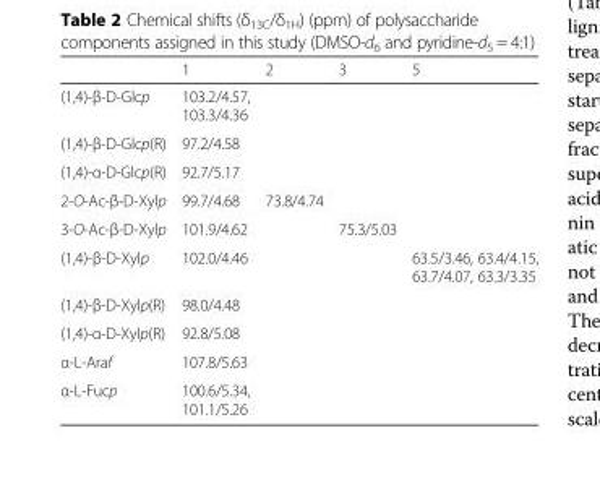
<table><thead><tr><td></td><td>1</td><td>2</td><td>3</td><td>5</td></tr></thead><tbody><tr><td>(1,4)-β-D-Glcp</td><td>103.2/4.57, 103.3/4.36</td><td></td><td></td><td></td></tr><tr><td>(1,4)-β-D-Glcp(R)</td><td>97.2/4.58</td><td></td><td></td><td></td></tr><tr><td>(1,4)-α-D-Glcp(R)</td><td>92.7/5.17</td><td></td><td></td><td></td></tr><tr><td>2-O-Ac-β-D-Xylp</td><td>99.7/4.68</td><td>73.8/4.74</td><td></td><td></td></tr><tr><td>3-O-Ac-β-D-Xylp</td><td>101.9/4.62</td><td></td><td>75.3/5.03</td><td></td></tr><tr><td>(1,4)-β-D-Xylp</td><td>102.0/4.46</td><td></td><td></td><td>63.5/3.46, 63.4/4.15, 63.7/4.07, 63.3/3.35</td></tr><tr><td>(1,4)-β-D-Xylp(R)</td><td>98.0/4.48</td><td></td><td></td><td></td></tr><tr><td>(1,4)-α-D-Xylp(R)</td><td>92.8/5.08</td><td></td><td></td><td></td></tr><tr><td>α-L-Araf</td><td>107.8/5.63</td><td></td><td></td><td></td></tr><tr><td>α-L-Fucp</td><td>100.6/5.34, 101.1/5.26</td><td></td><td></td><td></td></tr></tbody></table>